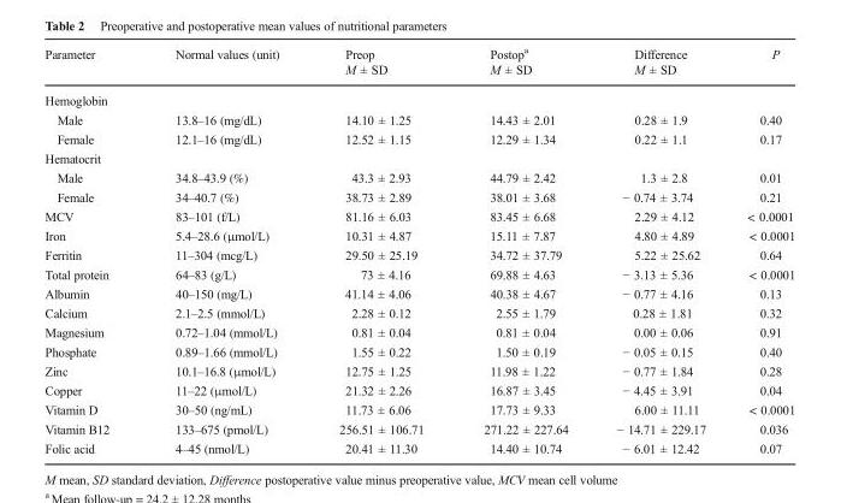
<table><thead><tr><td rowspan="2">Parameter</td><td rowspan="2">Normal values (unit)</td><td rowspan="2">Preop M ± SD</td><td rowspan="2">Postop<sup>a</sup> M ± SD</td><td rowspan="2">Difference M ± SD</td><td rowspan="2">P</td></tr><tr></tr></thead><tbody><tr><td colspan="6">Hemoglobin</td></tr><tr><td>Male</td><td>13.8–16 (mg/dL)</td><td>14.10 ± 1.25</td><td>14.43 ± 2.01</td><td>0.28 ± 1.9</td><td>0.40</td></tr><tr><td>Female</td><td>12.1–16 (mg/dL)</td><td>12.52 ± 1.15</td><td>12.29 ± 1.34</td><td>0.22 ± 1.1</td><td>0.17</td></tr><tr><td colspan="6">Hematocrit</td></tr><tr><td>Male</td><td>34.8–43.9 (%)</td><td>43.3 ± 2.93</td><td>44.79 ± 2.42</td><td>1.3 ± 2.8</td><td>0.01</td></tr><tr><td>Female</td><td>34–40.7 (%)</td><td>38.73 ± 2.89</td><td>38.01 ± 3.68</td><td>− 0.74 ± 3.74</td><td>0.21</td></tr><tr><td>MCV</td><td>83–101 (f/L)</td><td>81.16 ± 6.03</td><td>83.45 ± 6.68</td><td>2.29 ± 4.12</td><td>&lt; 0.0001</td></tr><tr><td>Iron</td><td>5.4–28.6 (μmol/L)</td><td>10.31 ± 4.87</td><td>15.11 ± 7.87</td><td>4.80 ± 4.89</td><td>&lt; 0.0001</td></tr><tr><td>Ferritin</td><td>11–304 (mcg/L)</td><td>29.50 ± 25.19</td><td>34.72 ± 37.79</td><td>5.22 ± 25.62</td><td>0.64</td></tr><tr><td>Total protein</td><td>64–83 (g/L)</td><td>73 ± 4.16</td><td>69.88 ± 4.63</td><td>− 3.13 ± 5.36</td><td>&lt; 0.0001</td></tr><tr><td>Albumin</td><td>40–150 (mg/L)</td><td>41.14 ± 4.06</td><td>40.38 ± 4.67</td><td>− 0.77 ± 4.16</td><td>0.13</td></tr><tr><td>Calcium</td><td>2.1–2.5 (mmol/L)</td><td>2.28 ± 0.12</td><td>2.55 ± 1.79</td><td>0.28 ± 1.81</td><td>0.32</td></tr><tr><td>Magnesium</td><td>0.72–1.04 (mmol/L)</td><td>0.81 ± 0.04</td><td>0.81 ± 0.04</td><td>0.00 ± 0.06</td><td>0.91</td></tr><tr><td>Phosphate</td><td>0.89–1.66 (mmol/L)</td><td>1.55 ± 0.22</td><td>1.50 ± 0.19</td><td>− 0.05 ± 0.15</td><td>0.40</td></tr><tr><td>Zinc</td><td>10.1–16.8 (μmol/L)</td><td>12.75 ± 1.25</td><td>11.98 ± 1.22</td><td>− 0.77 ± 1.84</td><td>0.28</td></tr><tr><td>Copper</td><td>11–22 (μmol/L)</td><td>21.32 ± 2.26</td><td>16.87 ± 3.45</td><td>− 4.45 ± 3.91</td><td>0.04</td></tr><tr><td>Vitamin D</td><td>30–50 (ng/mL)</td><td>11.73 ± 6.06</td><td>17.73 ± 9.33</td><td>6.00 ± 11.11</td><td>&lt; 0.0001</td></tr><tr><td>Vitamin B12</td><td>133–675 (pmol/L)</td><td>256.51 ± 106.71</td><td>271.22 ± 227.64</td><td>− 14.71 ± 229.17</td><td>0.036</td></tr><tr><td>Folic acid</td><td>4–45 (nmol/L)</td><td>20.41 ± 11.30</td><td>14.40 ± 10.74</td><td>− 6.01 ± 12.42</td><td>0.07</td></tr></tbody></table>